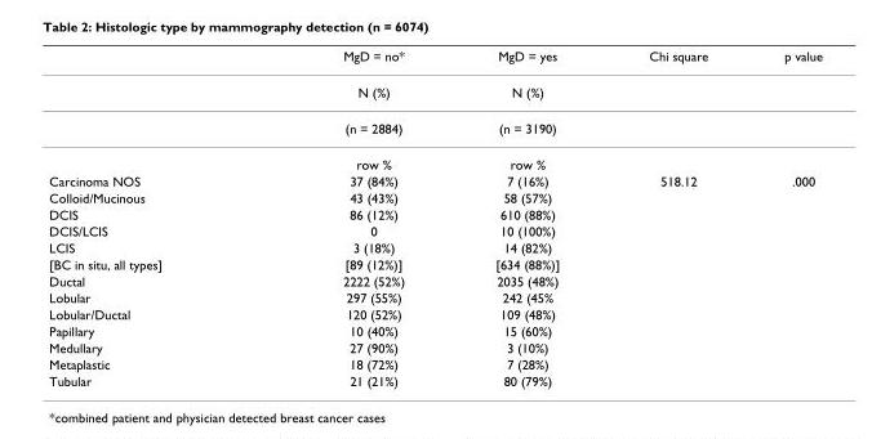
<table><thead><tr><td></td><td>MgD = no*</td><td>MgD = yes</td><td>Chi square</td><td>p value</td></tr></thead><tbody><tr><td></td><td>N (%)</td><td>N (%)</td><td></td><td></td></tr><tr><td></td><td>(n = 2884)</td><td>(n = 3190)</td><td></td><td></td></tr><tr><td></td><td>row %</td><td>row %</td><td></td><td></td></tr><tr><td>Carcinoma NOS</td><td>37 (84%)</td><td>7 (16%)</td><td>518.12</td><td>.000</td></tr><tr><td>Colloid/Mucinous</td><td>43 (43%)</td><td>58 (57%)</td><td></td><td></td></tr><tr><td>DCIS</td><td>86 (12%)</td><td>610 (88%)</td><td></td><td></td></tr><tr><td>DCIS/LCIS</td><td>0</td><td>10 (100%)</td><td></td><td></td></tr><tr><td>LCIS</td><td>3 (18%)</td><td>14 (82%)</td><td></td><td></td></tr><tr><td>[BC in situ, all types]</td><td>[89 (12%)]</td><td>[634 (88%)]</td><td></td><td></td></tr><tr><td>Ductal</td><td>2222 (52%)</td><td>2035 (48%)</td><td></td><td></td></tr><tr><td>Lobular</td><td>297 (55%)</td><td>242 (45%</td><td></td><td></td></tr><tr><td>Lobular/Ductal</td><td>120 (52%)</td><td>109 (48%)</td><td></td><td></td></tr><tr><td>Papillary</td><td>10 (40%)</td><td>15 (60%)</td><td></td><td></td></tr><tr><td>Medullary</td><td>27 (90%)</td><td>3 (10%)</td><td></td><td></td></tr><tr><td>Metaplastic</td><td>18 (72%)</td><td>7 (28%)</td><td></td><td></td></tr><tr><td>Tubular</td><td>21 (21%)</td><td>80 (79%)</td><td></td><td></td></tr></tbody></table>